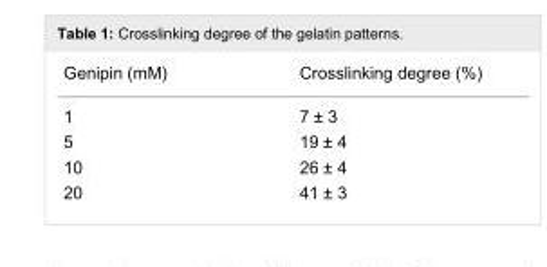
<table><tbody><tr><td>Genipin (mM)</td><td>Crosslinking degree (%)</td></tr><tr><td>1</td><td>7 ± 3</td></tr><tr><td>5</td><td>19 ± 4</td></tr><tr><td>10</td><td>26 ± 4</td></tr><tr><td>20</td><td>41 ± 3</td></tr></tbody></table>